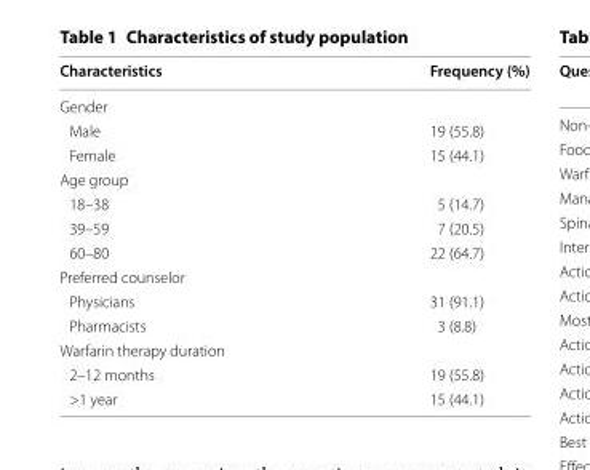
<table><thead><tr><td>Characteristics</td><td>Frequency (%)</td></tr></thead><tbody><tr><td colspan="2">Gender</td></tr><tr><td>Male</td><td>19 (55.8)</td></tr><tr><td>Female</td><td>15 (44.1)</td></tr><tr><td colspan="2">Age group</td></tr><tr><td>18–38</td><td>5 (14.7)</td></tr><tr><td>39–59</td><td>7 (20.5)</td></tr><tr><td>60–80</td><td>22 (64.7)</td></tr><tr><td colspan="2">Preferred counselor</td></tr><tr><td>Physicians</td><td>31 (91.1)</td></tr><tr><td>Pharmacists</td><td>3 (8.8)</td></tr><tr><td colspan="2">Warfarin therapy duration</td></tr><tr><td>2–12 months</td><td>19 (55.8)</td></tr><tr><td>&gt;1 year</td><td>15 (44.1)</td></tr></tbody></table>